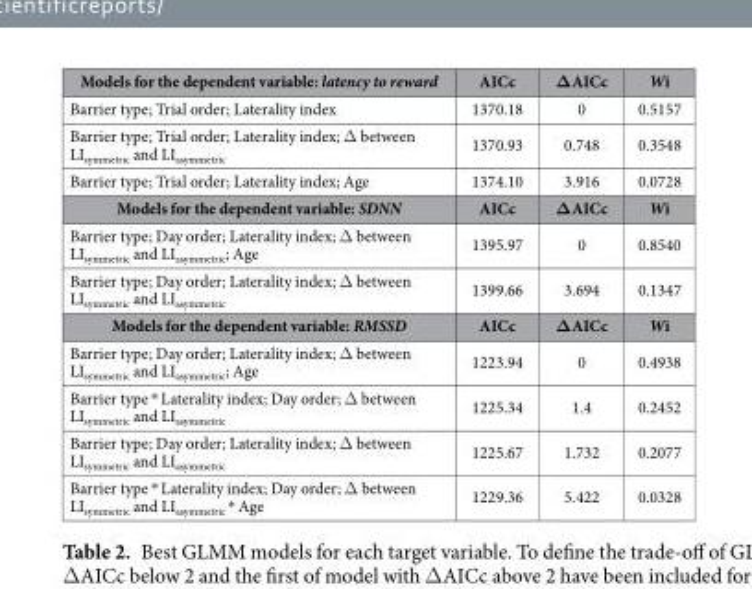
<table><thead><tr><td>Models for the dependent variable: latency to reward</td><td>AICc</td><td>ΔAICc</td><td>Wi</td></tr></thead><tbody><tr><td>Barrier type; Trial order; Laterality index</td><td>1370.18</td><td>0</td><td>0.5157</td></tr><tr><td>Barrier type; Trial order; Laterality index; Δ between LI<sub>symmetric</sub> and LI<sub>asymmetric</sub></td><td>1370.93</td><td>0.748</td><td>0.3548</td></tr><tr><td>Barrier type; Trial order; Laterality index; Age</td><td>1374.10</td><td>3.916</td><td>0.0728</td></tr><tr><td>Models for the dependent variable: SDNN</td><td>AICc</td><td>ΔAICc</td><td>Wi</td></tr><tr><td>Barrier type; Day order; Laterality index; Δ between LI<sub>symmetric</sub> and LI<sub>asymmetric</sub>; Age</td><td>1395.97</td><td>0</td><td>0.8540</td></tr><tr><td>Barrier type; Day order; Laterality index; Δ between LI<sub>symmetric</sub> and LI<sub>asymmetric</sub></td><td>1399.66</td><td>3.694</td><td>0.1347</td></tr><tr><td>Models for the dependent variable: RMSSD</td><td>AICc</td><td>ΔAICc</td><td>Wi</td></tr><tr><td>Barrier type; Day order; Laterality index; Δ between LI<sub>symmetric</sub> and LI<sub>asymmetric</sub>; Age</td><td>1223.94</td><td>0</td><td>0.4938</td></tr><tr><td>Barrier type * Laterality index; Day order; Δ between LI<sub>symmetric</sub> and LI<sub>asymmetric</sub></td><td>1225.34</td><td>1.4</td><td>0.2452</td></tr><tr><td>Barrier type; Day order; Laterality index; Δ between LI<sub>symmetric</sub> and LI<sub>asymmetric</sub></td><td>1225.67</td><td>1.732</td><td>0.2077</td></tr><tr><td>Barrier type * Laterality index; Day order; Δ between LI<sub>symmetric</sub> and LI<sub>asymmetric</sub> * Age</td><td>1229.36</td><td>5.422</td><td>0.0328</td></tr></tbody></table>